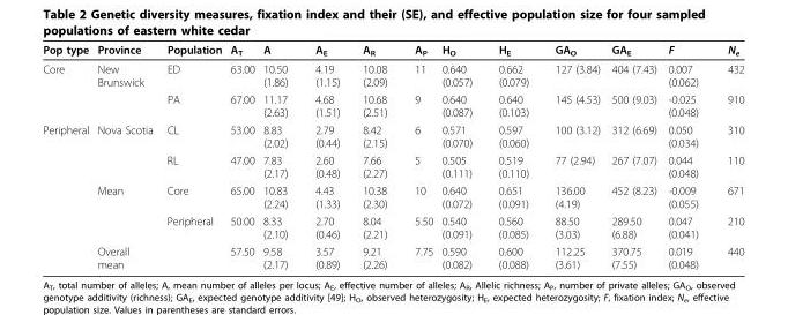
<table><thead><tr><td>Pop type</td><td>Province</td><td>Population</td><td>A<sub>T</sub></td><td>A</td><td>A<sub>E</sub></td><td>A<sub>R</sub></td><td>A<sub>P</sub></td><td>H<sub>O</sub></td><td>H<sub>E</sub></td><td>GA<sub>O</sub></td><td>GA<sub>E</sub></td><td>F</td><td>N<sub>e</sub></td></tr></thead><tbody><tr><td rowspan="2">Core</td><td>New Brunswick</td><td>ED</td><td>63.00</td><td>10.50 (1.86)</td><td>4.19 (1.15)</td><td>10.08 (2.09)</td><td>11</td><td>0.640 (0.057)</td><td>0.662 (0.079)</td><td>127 (3.84)</td><td>404 (7.43)</td><td>0.007 (0.062)</td><td>432</td></tr><tr><td></td><td>PA</td><td>67.00</td><td>11.17 (2.63)</td><td>4.68 (1.51)</td><td>10.68 (2.51)</td><td>9</td><td>0.640 (0.087)</td><td>0.640 (0.103)</td><td>145 (4.53)</td><td>500 (9.03)</td><td>-0.025 (0.048)</td><td>910</td></tr><tr><td rowspan="5">Peripheral</td><td>Nova Scotia</td><td>CL</td><td>53.00</td><td>8.83 (2.02)</td><td>2.79 (0.44)</td><td>8.42 (2.15)</td><td>6</td><td>0.571 (0.070)</td><td>0.597 (0.060)</td><td>100 (3.12)</td><td>312 (6.69)</td><td>0.050 (0.034)</td><td>310</td></tr><tr><td></td><td>RL</td><td>47.00</td><td>7.83 (2.17)</td><td>2.60 (0.48)</td><td>7.66 (2.27)</td><td>5</td><td>0.505 (0.111)</td><td>0.519 (0.110)</td><td>77 (2.94)</td><td>267 (7.07)</td><td>0.044 (0.048)</td><td>110</td></tr><tr><td>Mean</td><td>Core</td><td>65.00</td><td>10.83 (2.24)</td><td>4.43 (1.33)</td><td>10.38 (2.30)</td><td>10</td><td>0.640 (0.072)</td><td>0.651 (0.091)</td><td>136.00 (4.19)</td><td>452 (8.23)</td><td>-0.009 (0.055)</td><td>671</td></tr><tr><td></td><td>Peripheral</td><td>50.00</td><td>8.33 (2.10)</td><td>2.70 (0.46)</td><td>8.04 (2.21)</td><td>5.50</td><td>0.540 (0.091)</td><td>0.560 (0.085)</td><td>88.50 (3.03)</td><td>289.50 (6.88)</td><td>0.047 (0.041)</td><td>210</td></tr><tr><td>Overall mean</td><td></td><td>57.50</td><td>9.58 (2.17)</td><td>3.57 (0.89)</td><td>9.21 (2.26)</td><td>7.75</td><td>0.590 (0.082)</td><td>0.600 (0.088)</td><td>112.25 (3.61)</td><td>370.75 (7.55)</td><td>0.019 (0.048)</td><td>440</td></tr></tbody></table>